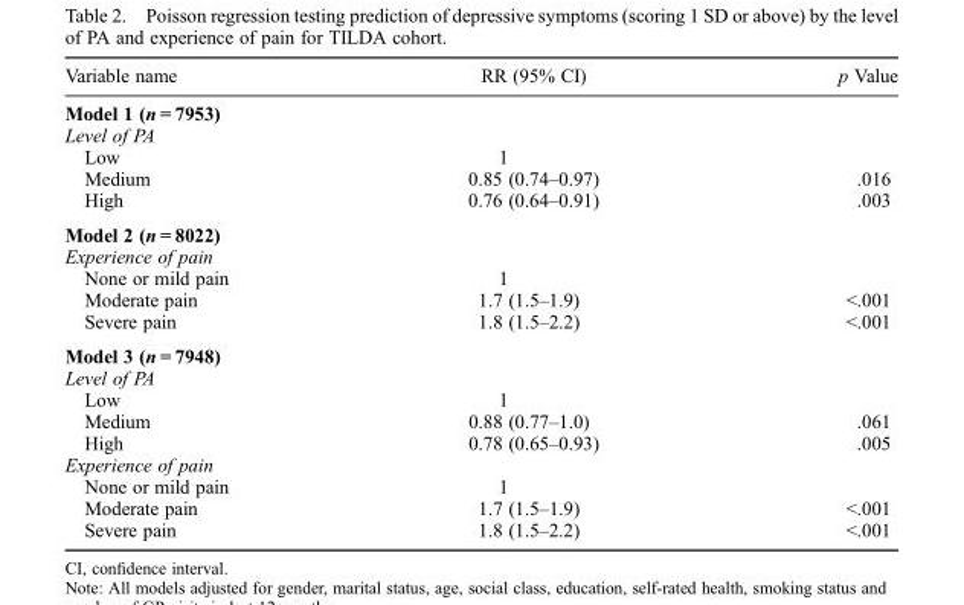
<table><thead><tr><td>Variable name</td><td>RR (95% CI)</td><td>p Value</td></tr></thead><tbody><tr><td colspan="3">Model 1 (n = 7953)</td></tr><tr><td colspan="3">Level of PA</td></tr><tr><td>Low</td><td>1</td><td></td></tr><tr><td>Medium</td><td>0.85 (0.74–0.97)</td><td>.016</td></tr><tr><td>High</td><td>0.76 (0.64–0.91)</td><td>.003</td></tr><tr><td colspan="3">Model 2 (n = 8022)</td></tr><tr><td colspan="3">Experience of pain</td></tr><tr><td>None or mild pain</td><td>1</td><td></td></tr><tr><td>Moderate pain</td><td>1.7 (1.5–1.9)</td><td>&lt;.001</td></tr><tr><td>Severe pain</td><td>1.8 (1.5–2.2)</td><td>&lt;.001</td></tr><tr><td colspan="3">Model 3 (n = 7948)</td></tr><tr><td colspan="3">Level of PA</td></tr><tr><td>Low</td><td>1</td><td></td></tr><tr><td>Medium</td><td>0.88 (0.77–1.0)</td><td>.061</td></tr><tr><td>High</td><td>0.78 (0.65–0.93)</td><td>.005</td></tr><tr><td colspan="3">Experience of pain</td></tr><tr><td>None or mild pain</td><td>1</td><td></td></tr><tr><td>Moderate pain</td><td>1.7 (1.5–1.9)</td><td>&lt;.001</td></tr><tr><td>Severe pain</td><td>1.8 (1.5–2.2)</td><td>&lt;.001</td></tr></tbody></table>